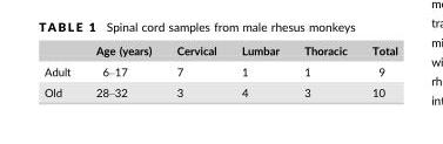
<table><thead><tr><td></td><td>Age (years)</td><td>Cervical</td><td>Lumbar</td><td>Thoracic</td><td>Total</td></tr></thead><tbody><tr><td>Adult</td><td>6–17</td><td>7</td><td>1</td><td>1</td><td>9</td></tr><tr><td>Old</td><td>28–32</td><td>3</td><td>4</td><td>3</td><td>10</td></tr></tbody></table>